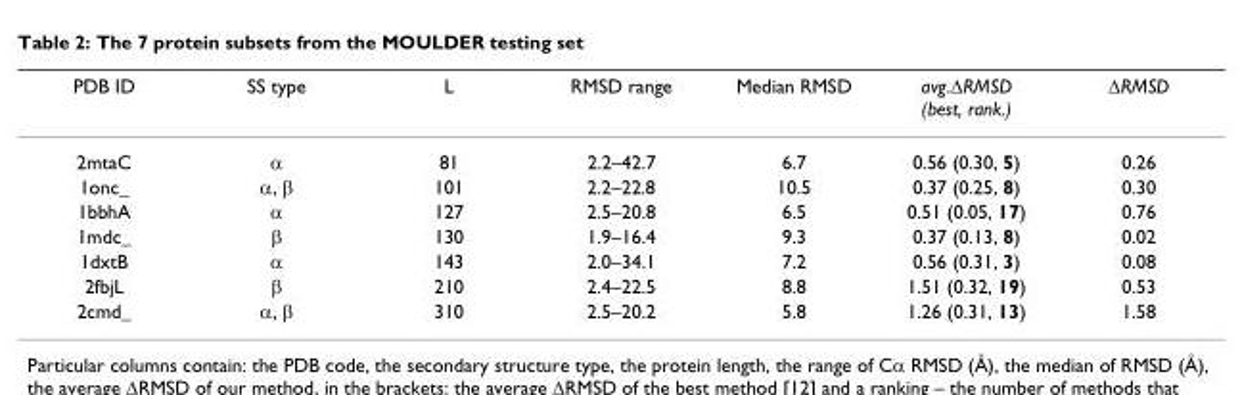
<table><thead><tr><td>PDB ID</td><td>SS type</td><td>L</td><td>RMSD range</td><td>Median RMSD</td><td>avg.ΔRMSD (best, rank.)</td><td>ΔRMSD</td></tr></thead><tbody><tr><td>2mtaC</td><td>α</td><td>81</td><td>2.2–42.7</td><td>6.7</td><td>0.56 (0.30, 5)</td><td>0.26</td></tr><tr><td>1onc_</td><td>α, β</td><td>101</td><td>2.2–22.8</td><td>10.5</td><td>0.37 (0.25, 8)</td><td>0.30</td></tr><tr><td>1bbhA</td><td>α</td><td>127</td><td>2.5–20.8</td><td>6.5</td><td>0.51 (0.05, 17)</td><td>0.76</td></tr><tr><td>1mdc_</td><td>β</td><td>130</td><td>1.9–16.4</td><td>9.3</td><td>0.37 (0.13, 8)</td><td>0.02</td></tr><tr><td>1dxtB</td><td>α</td><td>143</td><td>2.0–34.1</td><td>7.2</td><td>0.56 (0.31, 3)</td><td>0.08</td></tr><tr><td>2fbjL</td><td>β</td><td>210</td><td>2.4–22.5</td><td>8.8</td><td>1.51 (0.32, 19)</td><td>0.53</td></tr><tr><td>2cmd_</td><td>α, β</td><td>310</td><td>2.5–20.2</td><td>5.8</td><td>1.26 (0.31, 13)</td><td>1.58</td></tr></tbody></table>